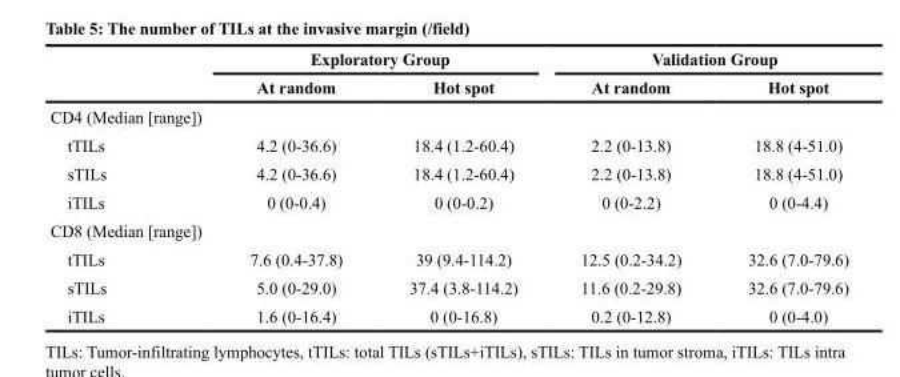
<table><thead><tr><td rowspan="2"></td><td colspan="2">Exploratory Group</td><td colspan="2">Validation Group</td></tr><tr><td>At random</td><td>Hot spot</td><td>At random</td><td>Hot spot</td></tr></thead><tbody><tr><td colspan="5">CD4 (Median [range])</td></tr><tr><td>tTILs</td><td>4.2 (0-36.6)</td><td>18.4 (1.2-60.4)</td><td>2.2 (0-13.8)</td><td>18.8 (4-51.0)</td></tr><tr><td>sTILs</td><td>4.2 (0-36.6)</td><td>18.4 (1.2-60.4)</td><td>2.2 (0-13.8)</td><td>18.8 (4-51.0)</td></tr><tr><td>iTILs</td><td>0 (0-0.4)</td><td>0 (0-0.2)</td><td>0 (0-2.2)</td><td>0 (0-4.4)</td></tr><tr><td colspan="5">CD8 (Median [range])</td></tr><tr><td>tTILs</td><td>7.6 (0.4-37.8)</td><td>39 (9.4-114.2)</td><td>12.5 (0.2-34.2)</td><td>32.6 (7.0-79.6)</td></tr><tr><td>sTILs</td><td>5.0 (0-29.0)</td><td>37.4 (3.8-114.2)</td><td>11.6 (0.2-29.8)</td><td>32.6 (7.0-79.6)</td></tr><tr><td>iTILs</td><td>1.6 (0-16.4)</td><td>0 (0-16.8)</td><td>0.2 (0-12.8)</td><td>0 (0-4.0)</td></tr></tbody></table>